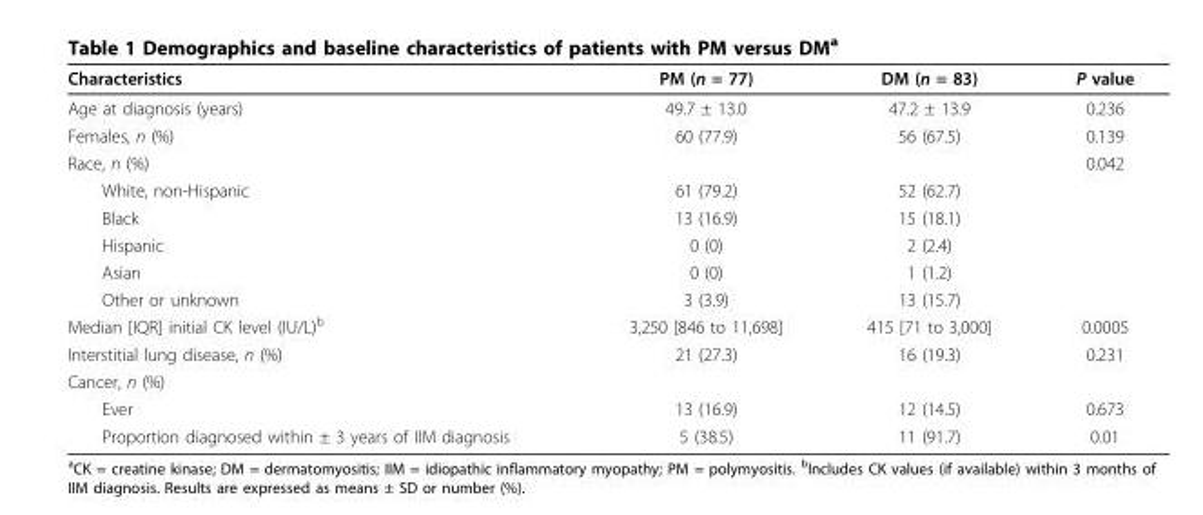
<table><thead><tr><td>Characteristics</td><td>PM (n = 77)</td><td>DM (n = 83)</td><td>P value</td></tr></thead><tbody><tr><td>Age at diagnosis (years)</td><td>49.7 ± 13.0</td><td>47.2 ± 13.9</td><td>0.236</td></tr><tr><td>Females, n (%)</td><td>60 (77.9)</td><td>56 (67.5)</td><td>0.139</td></tr><tr><td>Race, n (%)</td><td></td><td></td><td>0.042</td></tr><tr><td>White, non-Hispanic</td><td>61 (79.2)</td><td>52 (62.7)</td><td></td></tr><tr><td>Black</td><td>13 (16.9)</td><td>15 (18.1)</td><td></td></tr><tr><td>Hispanic</td><td>0 (0)</td><td>2 (2.4)</td><td></td></tr><tr><td>Asian</td><td>0 (0)</td><td>1 (1.2)</td><td></td></tr><tr><td>Other or unknown</td><td>3 (3.9)</td><td>13 (15.7)</td><td></td></tr><tr><td>Median [IQR] initial CK level (IU/L)<sup>b</sup></td><td>3,250 [846 to 11,698]</td><td>415 [71 to 3,000]</td><td>0.0005</td></tr><tr><td>Interstitial lung disease, n (%)</td><td>21 (27.3)</td><td>16 (19.3)</td><td>0.231</td></tr><tr><td colspan="4">Cancer, n (%)</td></tr><tr><td>Ever</td><td>13 (16.9)</td><td>12 (14.5)</td><td>0.673</td></tr><tr><td>Proportion diagnosed within ± 3 years of IIM diagnosis</td><td>5 (38.5)</td><td>11 (91.7)</td><td>0.01</td></tr></tbody></table>